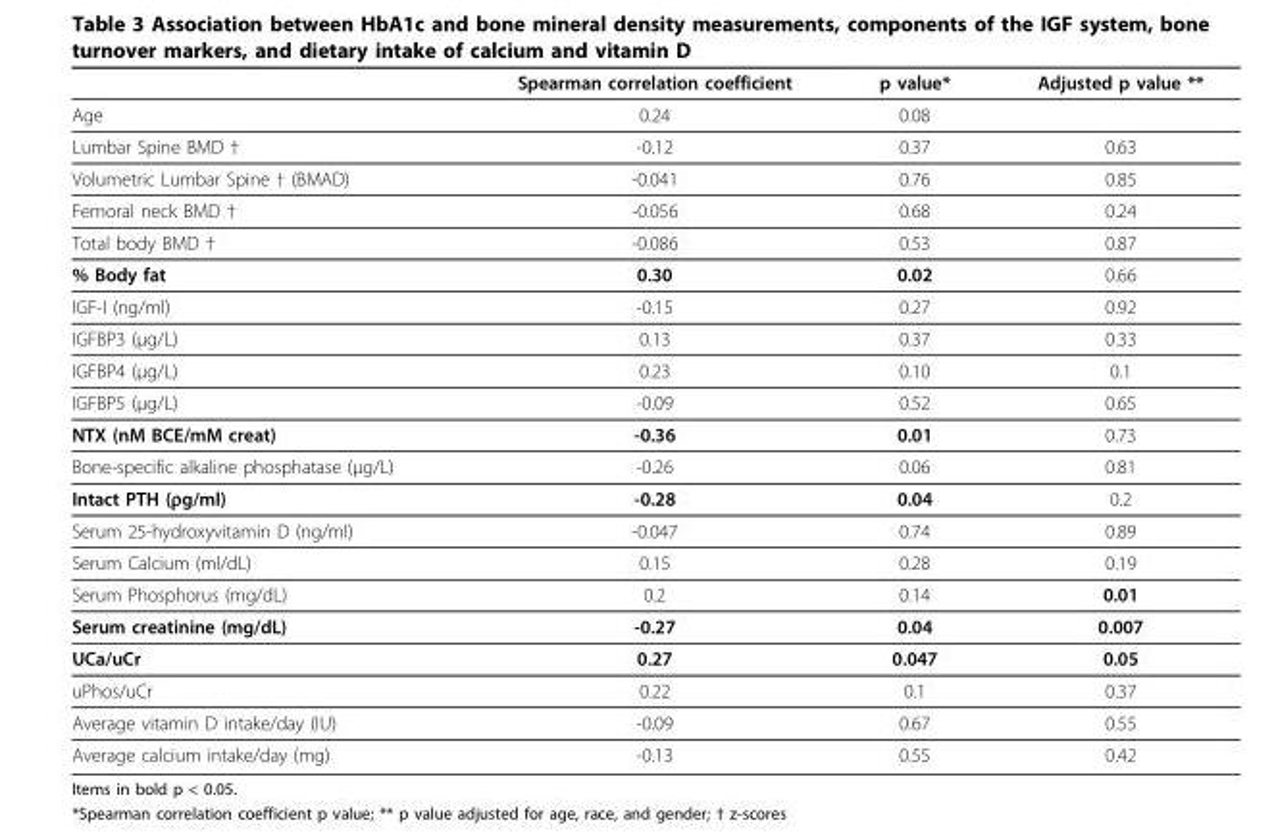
<table><thead><tr><td></td><td>Spearman correlation coefficient</td><td>p value*</td><td>Adjusted p value **</td></tr></thead><tbody><tr><td>Age</td><td>0.24</td><td>0.08</td><td></td></tr><tr><td>Lumbar Spine BMD †</td><td>-0.12</td><td>0.37</td><td>0.63</td></tr><tr><td>Volumetric Lumbar Spine † (BMAD)</td><td>-0.041</td><td>0.76</td><td>0.85</td></tr><tr><td>Femoral neck BMD †</td><td>-0.056</td><td>0.68</td><td>0.24</td></tr><tr><td>Total body BMD †</td><td>-0.086</td><td>0.53</td><td>0.87</td></tr><tr><td>% Body fat</td><td>0.30</td><td>0.02</td><td>0.66</td></tr><tr><td>IGF-I (ng/ml)</td><td>-0.15</td><td>0.27</td><td>0.92</td></tr><tr><td>IGFBP3 (μg/L)</td><td>0.13</td><td>0.37</td><td>0.33</td></tr><tr><td>IGFBP4 (μg/L)</td><td>0.23</td><td>0.10</td><td>0.1</td></tr><tr><td>IGFBP5 (μg/L)</td><td>-0.09</td><td>0.52</td><td>0.65</td></tr><tr><td>NTX (nM BCE/mM creat)</td><td>-0.36</td><td>0.01</td><td>0.73</td></tr><tr><td>Bone-specific alkaline phosphatase (μg/L)</td><td>-0.26</td><td>0.06</td><td>0.81</td></tr><tr><td>Intact PTH (ρg/ml)</td><td>-0.28</td><td>0.04</td><td>0.2</td></tr><tr><td>Serum 25-hydroxyvitamin D (ng/ml)</td><td>-0.047</td><td>0.74</td><td>0.89</td></tr><tr><td>Serum Calcium (ml/dL)</td><td>0.15</td><td>0.28</td><td>0.19</td></tr><tr><td>Serum Phosphorus (mg/dL)</td><td>0.2</td><td>0.14</td><td>0.01</td></tr><tr><td>Serum creatinine (mg/dL)</td><td>-0.27</td><td>0.04</td><td>0.007</td></tr><tr><td>UCa/uCr</td><td>0.27</td><td>0.047</td><td>0.05</td></tr><tr><td>uPhos/uCr</td><td>0.22</td><td>0.1</td><td>0.37</td></tr><tr><td>Average vitamin D intake/day (IU)</td><td>-0.09</td><td>0.67</td><td>0.55</td></tr><tr><td>Average calcium intake/day (mg)</td><td>-0.13</td><td>0.55</td><td>0.42</td></tr></tbody></table>